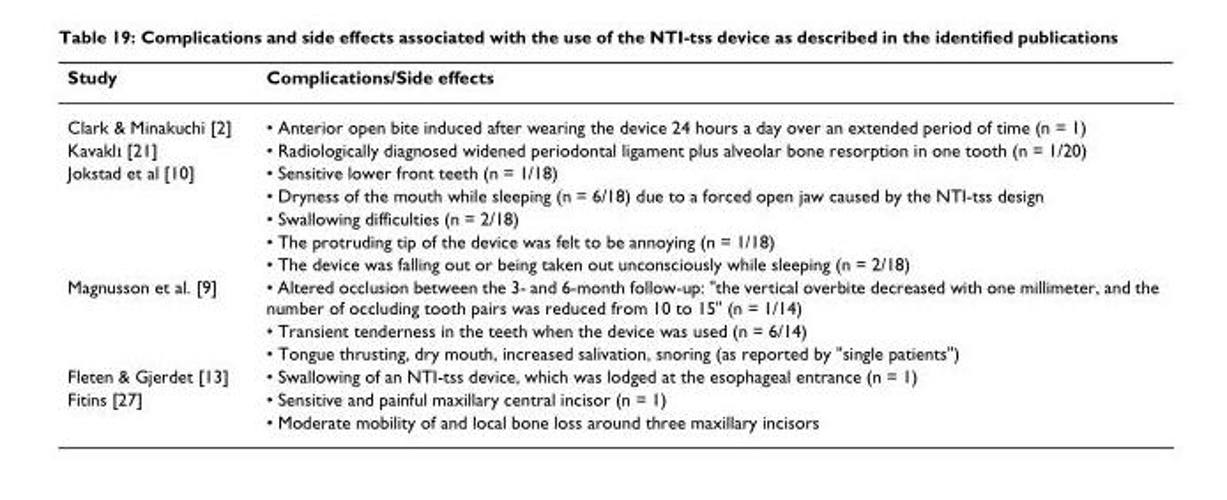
<table><thead><tr><td>Study</td><td>Complications/Side effects</td></tr></thead><tbody><tr><td>Clark &amp; Minakuchi [2]</td><td>• Anterior open bite induced after wearing the device 24 hours a day over an extended period of time (n = 1)</td></tr><tr><td>Kavaklı [21]</td><td>• Radiologically diagnosed widened periodontal ligament plus alveolar bone resorption in one tooth (n = 1/20)</td></tr><tr><td rowspan="5">Jokstad et al [10]</td><td>• Sensitive lower front teeth (n = 1/18)</td></tr><tr><td>• Dryness of the mouth while sleeping (n = 6/18) due to a forced open jaw caused by the NTI-tss design</td></tr><tr><td>• Swallowing difficulties (n = 2/18)</td></tr><tr><td>• The protruding tip of the device was felt to be annoying (n = 1/18)</td></tr><tr><td>• The device was falling out or being taken out unconsciously while sleeping (n = 2/18)</td></tr><tr><td rowspan="3">Magnusson et al. [9]</td><td>• Altered occlusion between the 3- and 6-month follow-up: &quot;the vertical overbite decreased with one millimeter, and the number of occluding tooth pairs was reduced from 10 to 15&quot; (n = 1/14)</td></tr><tr><td>• Transient tenderness in the teeth when the device was used (n = 6/14)</td></tr><tr><td>• Tongue thrusting, dry mouth, increased salivation, snoring (as reported by &quot;single patients&quot;)</td></tr><tr><td>Fleten &amp; Gjerdet [13]</td><td>• Swallowing of an NTI-tss device, which was lodged at the esophageal entrance (n = 1)</td></tr><tr><td rowspan="2">Fitins [27]</td><td>• Sensitive and painful maxillary central incisor (n = 1)</td></tr><tr><td>• Moderate mobility of and local bone loss around three maxillary incisors</td></tr></tbody></table>